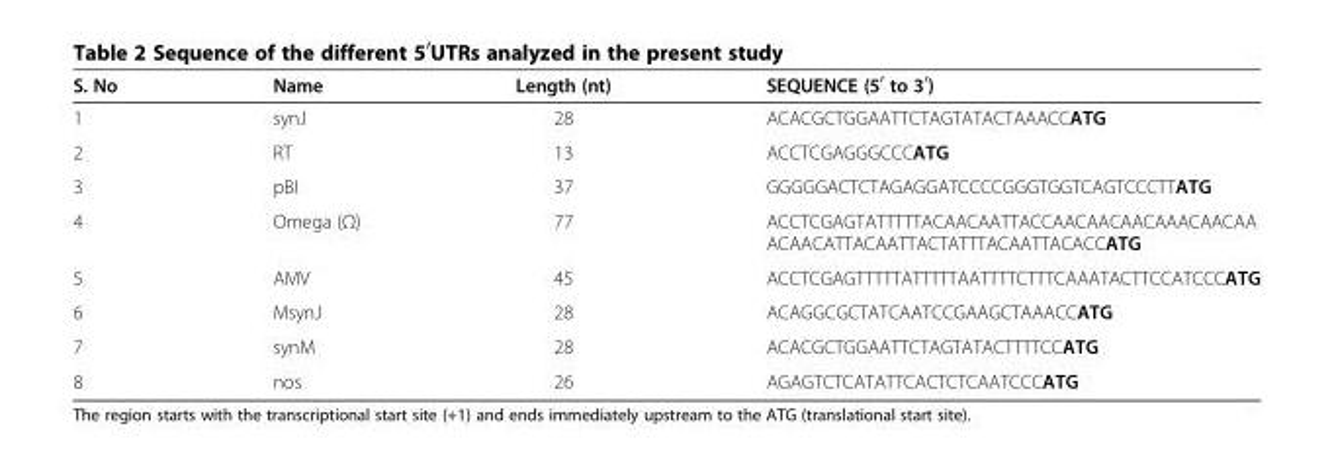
<table><thead><tr><td>S. No</td><td>Name</td><td>Length (nt)</td><td>SEQUENCE (5′ to 3′)</td></tr></thead><tbody><tr><td>1</td><td>synJ</td><td>28</td><td>ACACGCTGGAATTCTAGTATACTAAACCATG</td></tr><tr><td>2</td><td>RT</td><td>13</td><td>ACCTCGAGGGCCCATG</td></tr><tr><td>3</td><td>pBI</td><td>37</td><td>GGGGGACTCTAGAGGATCCCCGGGTGGTCAGTCCCTTATG</td></tr><tr><td>4</td><td>Omega (Ω)</td><td>77</td><td>ACCTCGAGTATTTTTACAACAATTACCAACAACAACAAACAACAA ACAACATTACAATTACTATTTACAATTACACCATG</td></tr><tr><td>5</td><td>AMV</td><td>45</td><td>ACCTCGAGTTTTTATTTTTAATTTTCTTTCAAATACTTCCATCCCATG</td></tr><tr><td>6</td><td>MsynJ</td><td>28</td><td>ACAGGCGCTATCAATCCGAAGCTAAACCATG</td></tr><tr><td>7</td><td>synM</td><td>28</td><td>ACACGCTGGAATTCTAGTATACTTTTCCATG</td></tr><tr><td>8</td><td>nos</td><td>26</td><td>AGAGTCTCATATTCACTCTCAATCCCATG</td></tr></tbody></table>